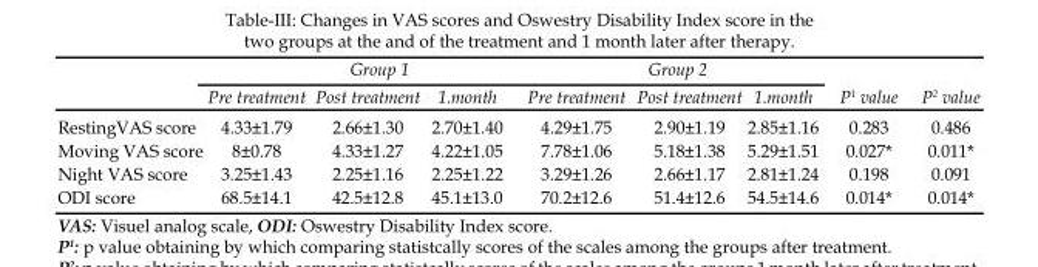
<table><thead><tr><td rowspan="2"></td><td colspan="3">Group 1</td><td colspan="3">Group 2</td><td rowspan="2">P<sup>1</sup> value</td><td rowspan="2">P<sup>2</sup> value</td></tr><tr><td>Pre treatment</td><td>Post treatment</td><td>1.month</td><td>Pre treatment</td><td>Post treatment</td><td>1.month</td></tr></thead><tbody><tr><td>RestingVAS score</td><td>4.33±1.79</td><td>2.66±1.30</td><td>2.70±1.40</td><td>4.29±1.75</td><td>2.90±1.19</td><td>2.85±1.16</td><td>0.283</td><td>0.486</td></tr><tr><td>Moving VAS score</td><td>8±0.78</td><td>4.33±1.27</td><td>4.22±1.05</td><td>7.78±1.06</td><td>5.18±1.38</td><td>5.29±1.51</td><td>0.027*</td><td>0.011*</td></tr><tr><td>Night VAS score</td><td>3.25±1.43</td><td>2.25±1.16</td><td>2.25±1.22</td><td>3.29±1.26</td><td>2.66±1.17</td><td>2.81±1.24</td><td>0.198</td><td>0.091</td></tr><tr><td>ODI score</td><td>68.5±14.1</td><td>42.5±12.8</td><td>45.1±13.0</td><td>70.2±12.6</td><td>51.4±12.6</td><td>54.5±14.6</td><td>0.014*</td><td>0.014*</td></tr></tbody></table>